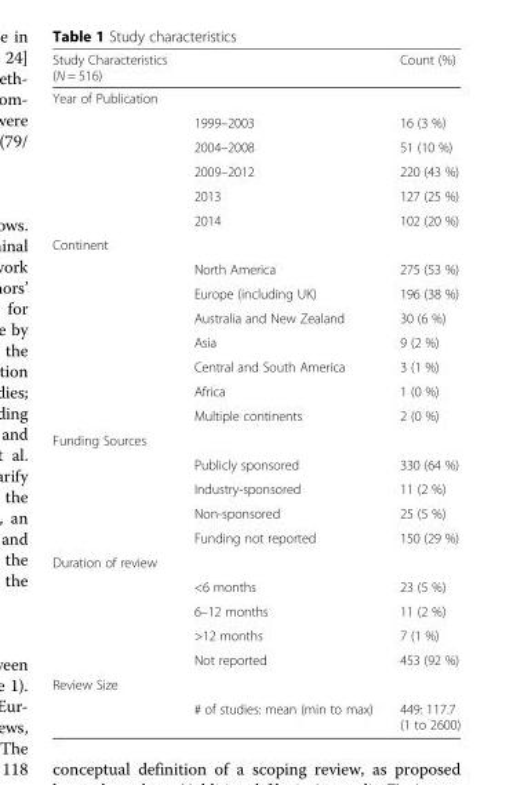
<table><thead><tr><td>Study Characteristics (N = 516)</td><td></td><td>Count (%)</td></tr></thead><tbody><tr><td colspan="3">Year of Publication</td></tr><tr><td></td><td>1999–2003</td><td>16 (3 %)</td></tr><tr><td></td><td>2004–2008</td><td>51 (10 %)</td></tr><tr><td></td><td>2009–2012</td><td>220 (43 %)</td></tr><tr><td></td><td>2013</td><td>127 (25 %)</td></tr><tr><td></td><td>2014</td><td>102 (20 %)</td></tr><tr><td colspan="3">Continent</td></tr><tr><td></td><td>North America</td><td>275 (53 %)</td></tr><tr><td></td><td>Europe (including UK)</td><td>196 (38 %)</td></tr><tr><td></td><td>Australia and New Zealand</td><td>30 (6 %)</td></tr><tr><td></td><td>Asia</td><td>9 (2 %)</td></tr><tr><td></td><td>Central and South America</td><td>3 (1 %)</td></tr><tr><td></td><td>Africa</td><td>1 (0 %)</td></tr><tr><td></td><td>Multiple continents</td><td>2 (0 %)</td></tr><tr><td colspan="3">Funding Sources</td></tr><tr><td></td><td>Publicly sponsored</td><td>330 (64 %)</td></tr><tr><td></td><td>Industry-sponsored</td><td>11 (2 %)</td></tr><tr><td></td><td>Non-sponsored</td><td>25 (5 %)</td></tr><tr><td></td><td>Funding not reported</td><td>150 (29 %)</td></tr><tr><td colspan="3">Duration of review</td></tr><tr><td></td><td>&lt;6 months</td><td>23 (5 %)</td></tr><tr><td></td><td>6–12 months</td><td>11 (2 %)</td></tr><tr><td></td><td>&gt;12 months</td><td>7 (1 %)</td></tr><tr><td></td><td>Not reported</td><td>453 (92 %)</td></tr><tr><td colspan="3">Review Size</td></tr><tr><td></td><td># of studies: mean (min to max)</td><td>449: 117.7 (1 to 2600)</td></tr></tbody></table>